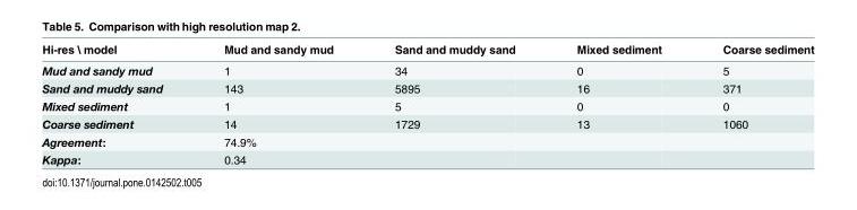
<table><thead><tr><td>Hi-res \ model</td><td>Mud and sandy mud</td><td>Sand and muddy sand</td><td>Mixed sediment</td><td>Coarse sediment</td></tr></thead><tbody><tr><td>Mud and sandy mud</td><td>1</td><td>34</td><td>0</td><td>5</td></tr><tr><td>Sand and muddy sand</td><td>143</td><td>5895</td><td>16</td><td>371</td></tr><tr><td>Mixed sediment</td><td>1</td><td>5</td><td>0</td><td>0</td></tr><tr><td>Coarse sediment</td><td>14</td><td>1729</td><td>13</td><td>1060</td></tr><tr><td>Agreement:</td><td>74.9%</td><td></td><td></td><td></td></tr><tr><td>Kappa:</td><td>0.34</td><td></td><td></td><td></td></tr></tbody></table>